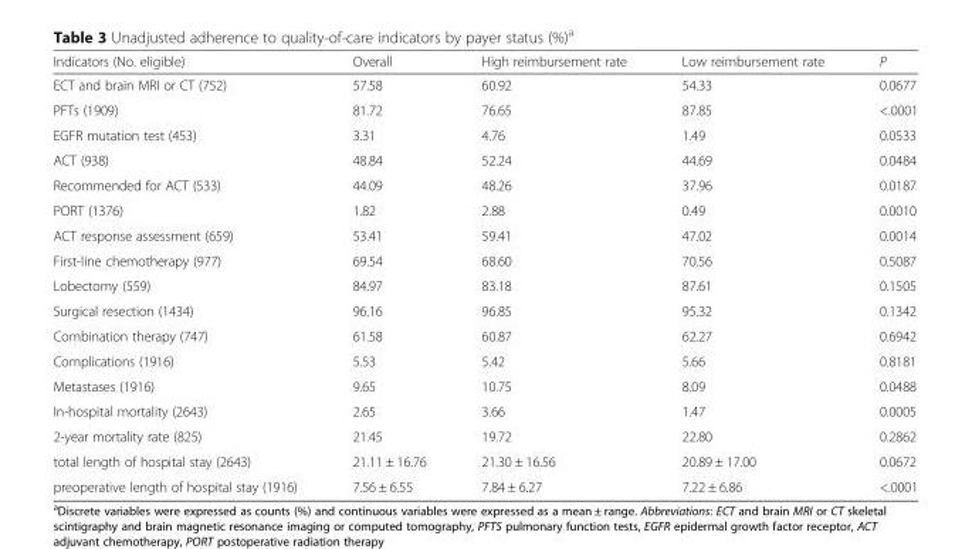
<table><thead><tr><td>Indicators (No. eligible)</td><td>Overall</td><td>High reimbursement rate</td><td>Low reimbursement rate</td><td>P</td></tr></thead><tbody><tr><td>ECT and brain MRI or CT (752)</td><td>57.58</td><td>60.92</td><td>54.33</td><td>0.0677</td></tr><tr><td>PFTs (1909)</td><td>81.72</td><td>76.65</td><td>87.85</td><td>&lt;.0001</td></tr><tr><td>EGFR mutation test (453)</td><td>3.31</td><td>4.76</td><td>1.49</td><td>0.0533</td></tr><tr><td>ACT (938)</td><td>48.84</td><td>52.24</td><td>44.69</td><td>0.0484</td></tr><tr><td>Recommended for ACT (533)</td><td>44.09</td><td>48.26</td><td>37.96</td><td>0.0187</td></tr><tr><td>PORT (1376)</td><td>1.82</td><td>2.88</td><td>0.49</td><td>0.0010</td></tr><tr><td>ACT response assessment (659)</td><td>53.41</td><td>59.41</td><td>47.02</td><td>0.0014</td></tr><tr><td>First-line chemotherapy (977)</td><td>69.54</td><td>68.60</td><td>70.56</td><td>0.5087</td></tr><tr><td>Lobectomy (559)</td><td>84.97</td><td>83.18</td><td>87.61</td><td>0.1505</td></tr><tr><td>Surgical resection (1434)</td><td>96.16</td><td>96.85</td><td>95.32</td><td>0.1342</td></tr><tr><td>Combination therapy (747)</td><td>61.58</td><td>60.87</td><td>62.27</td><td>0.6942</td></tr><tr><td>Complications (1916)</td><td>5.53</td><td>5.42</td><td>5.66</td><td>0.8181</td></tr><tr><td>Metastases (1916)</td><td>9.65</td><td>10.75</td><td>8.09</td><td>0.0488</td></tr><tr><td>In-hospital mortality (2643)</td><td>2.65</td><td>3.66</td><td>1.47</td><td>0.0005</td></tr><tr><td>2-year mortality rate (825)</td><td>21.45</td><td>19.72</td><td>22.80</td><td>0.2862</td></tr><tr><td>total length of hospital stay (2643)</td><td>21.11 ± 16.76</td><td>21.30 ± 16.56</td><td>20.89 ± 17.00</td><td>0.0672</td></tr><tr><td>preoperative length of hospital stay (1916)</td><td>7.56 ± 6.55</td><td>7.84 ± 6.27</td><td>7.22 ± 6.86</td><td>&lt;.0001</td></tr></tbody></table>